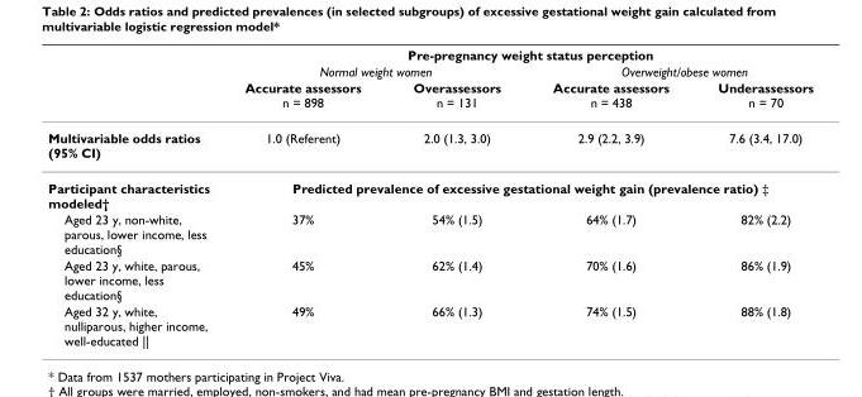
<table><thead><tr><td rowspan="3"></td><td colspan="4">Pre-pregnancy weight status perception</td></tr><tr><td colspan="2">Normal weight women</td><td colspan="2">Overweight/obese women</td></tr><tr><td>Accurate assessors n = 898</td><td>Overassessors n = 131</td><td>Accurate assessors n = 438</td><td>Underassessors n = 70</td></tr></thead><tbody><tr><td>Multivariable odds ratios (95% CI)</td><td>1.0 (Referent)</td><td>2.0 (1.3, 3.0)</td><td>2.9 (2.2, 3.9)</td><td>7.6 (3.4, 17.0)</td></tr><tr><td>Participant characteristics modeled†</td><td colspan="4">Predicted prevalence of excessive gestational weight gain (prevalence ratio) ‡</td></tr><tr><td>Aged 23 y, non-white, parous, lower income, less education§</td><td>37%</td><td>54% (1.5)</td><td>64% (1.7)</td><td>82% (2.2)</td></tr><tr><td>Aged 23 y, white, parous, lower income, less education§</td><td>45%</td><td>62% (1.4)</td><td>70% (1.6)</td><td>86% (1.9)</td></tr><tr><td>Aged 32 y, white, nulliparous, higher income, well-educated ||</td><td>49%</td><td>66% (1.3)</td><td>74% (1.5)</td><td>88% (1.8)</td></tr></tbody></table>